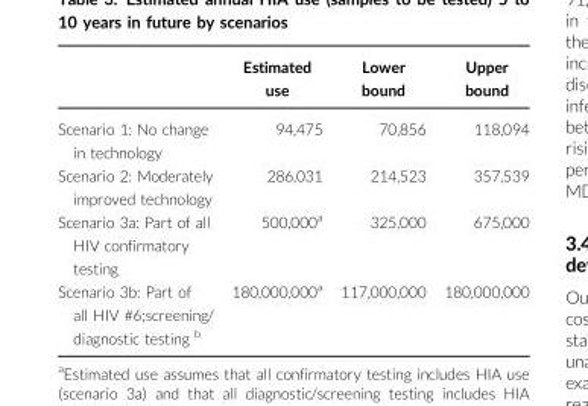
<table><thead><tr><td></td><td>Estimated use</td><td>Lower bound</td><td>Upper bound</td></tr></thead><tbody><tr><td>Scenario 1: No change in technology</td><td>94,475</td><td>70,856</td><td>118,094</td></tr><tr><td>Scenario 2: Moderately improved technology</td><td>286,031</td><td>214,523</td><td>357,539</td></tr><tr><td>Scenario 3a: Part of all HIV confirmatory testing</td><td>500,000<sup>a</sup></td><td>325,000</td><td>675,000</td></tr><tr><td>Scenario 3b: Part of all HIV #6;screening/ diagnostic testing b</td><td>180,000,000<sup>a</sup></td><td>117,000,000</td><td>180,000,000</td></tr></tbody></table>